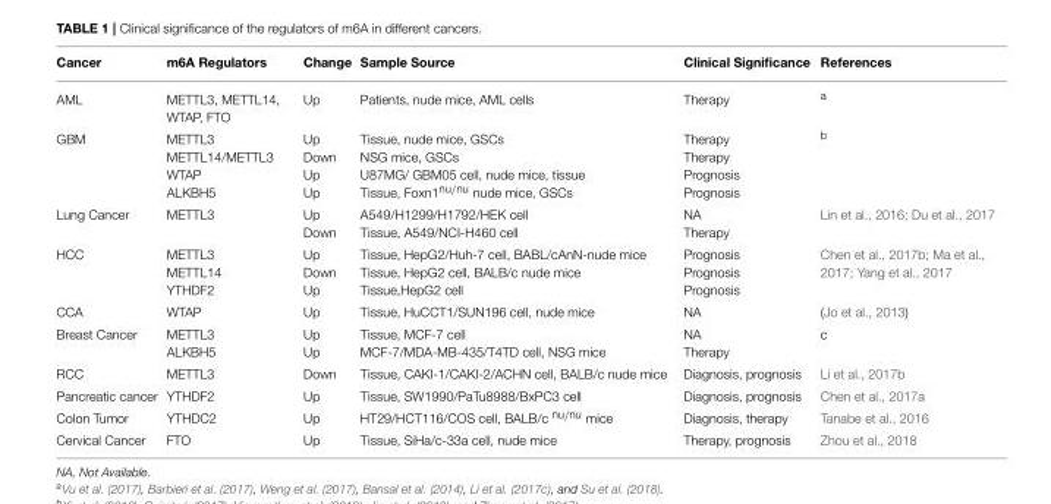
<table><thead><tr><td>Cancer</td><td>m6A Regulators</td><td>Change</td><td>Sample Source</td><td>Clinical Significance</td><td>References</td></tr></thead><tbody><tr><td>AML</td><td>METTL3, METTL14, WTAP, FTO</td><td>Up</td><td>Patients, nude mice, AML cells</td><td>Therapy</td><td><sup>a</sup></td></tr><tr><td>GBM</td><td>METTL3 METTL14/METTL3 WTAP ALKBH5</td><td>Up Down Up Up</td><td>Tissue, nude mice, GSCs NSG mice, GSCs U87MG/ GBM05 cell, nude mice, tissue Tissue, Foxn1<sup>nu/nu</sup> nude mice, GSCs</td><td>Therapy Therapy Prognosis Prognosis</td><td><sup>b</sup></td></tr><tr><td>Lung Cancer</td><td>METTL3</td><td>Up Down</td><td>A549/H1299/H1792/HEK cell Tissue, A549/NCI-H460 cell</td><td>NA Therapy</td><td>Lin et al., 2016; Du et al., 2017</td></tr><tr><td>HCC</td><td>METTL3 METTL14 YTHDF2</td><td>Up Down Up</td><td>Tissue, HepG2/Huh-7 cell, BABL/cAnN-nude mice Tissue, HepG2 cell, BALB/c nude mice Tissue,HepG2 cell</td><td>Prognosis Prognosis Prognosis</td><td>Chen et al., 2017b; Ma et al., 2017; Yang et al., 2017</td></tr><tr><td>CCA</td><td>WTAP</td><td>Up</td><td>Tissue, HuCCT1/SUN196 cell, nude mice</td><td>NA</td><td>(Jo et al., 2013)</td></tr><tr><td>Breast Cancer</td><td>METTL3 ALKBH5</td><td>Up Up</td><td>Tissue, MCF-7 cell MCF-7/MDA-MB-435/T4TD cell, NSG mice</td><td>NA Therapy</td><td><sup>c</sup></td></tr><tr><td>RCC</td><td>METTL3</td><td>Down</td><td>Tissue, CAKI-1/CAKI-2/ACHN cell, BALB/c nude mice</td><td>Diagnosis, prognosis</td><td>Li et al., 2017b</td></tr><tr><td>Pancreatic cancer</td><td>YTHDF2</td><td>Up</td><td>Tissue, SW1990/PaTu8988/BxPC3 cell</td><td>Diagnosis, prognosis</td><td>Chen et al., 2017a</td></tr><tr><td>Colon Tumor</td><td>YTHDC2</td><td>Up</td><td>HT29/HCT116/COS cell, BALB/c <sup>nu/nu</sup> mice</td><td>Diagnosis, therapy</td><td>Tanabe et al., 2016</td></tr><tr><td>Cervical Cancer</td><td>FTO</td><td>Up</td><td>Tissue, SiHa/c-33a cell, nude mice</td><td>Therapy, prognosis</td><td>Zhou et al., 2018</td></tr></tbody></table>